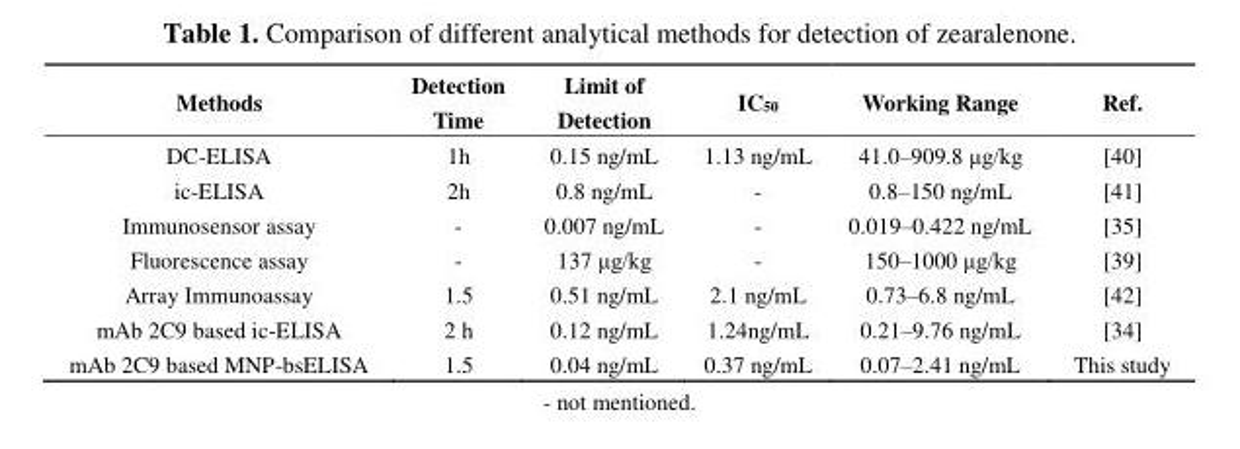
<table><thead><tr><td>Methods</td><td>Detection Time</td><td>Limit of Detection</td><td>IC<sub>50</sub></td><td>Working Range</td><td>Ref.</td></tr></thead><tbody><tr><td>DC-ELISA</td><td>1h</td><td>0.15 ng/mL</td><td>1.13 ng/mL</td><td>41.0–909.8 μg/kg</td><td>[40]</td></tr><tr><td>ic-ELISA</td><td>2h</td><td>0.8 ng/mL</td><td>-</td><td>0.8–150 ng/mL</td><td>[41]</td></tr><tr><td>Immunosensor assay</td><td>-</td><td>0.007 ng/mL</td><td>-</td><td>0.019–0.422 ng/mL</td><td>[35]</td></tr><tr><td>Fluorescence assay</td><td>-</td><td>137 μg/kg</td><td>-</td><td>150–1000 μg/kg</td><td>[39]</td></tr><tr><td>Array Immunoassay</td><td>1.5</td><td>0.51 ng/mL</td><td>2.1 ng/mL</td><td>0.73–6.8 ng/mL</td><td>[42]</td></tr><tr><td>mAb 2C9 based ic-ELISA</td><td>2 h</td><td>0.12 ng/mL</td><td>1.24ng/mL</td><td>0.21–9.76 ng/mL</td><td>[34]</td></tr><tr><td>mAb 2C9 based MNP-bsELISA</td><td>1.5</td><td>0.04 ng/mL</td><td>0.37 ng/mL</td><td>0.07–2.41 ng/mL</td><td>This study</td></tr></tbody></table>